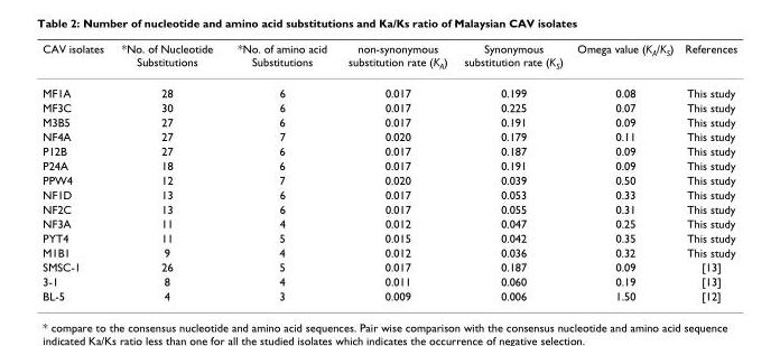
<table><thead><tr><td>CAV isolates</td><td>*No. of Nucleotide Substitutions</td><td>*No. of amino acid Substitutions</td><td>non-synonymous substitution rate (K<sub>A</sub>)</td><td>Synonymous substitution rate (K<sub>S</sub>)</td><td>Omega value (K<sub>A</sub>/K<sub>S</sub>)</td><td>References</td></tr></thead><tbody><tr><td>MF1A</td><td>28</td><td>6</td><td>0.017</td><td>0.199</td><td>0.08</td><td>This study</td></tr><tr><td>MF3C</td><td>30</td><td>6</td><td>0.017</td><td>0.225</td><td>0.07</td><td>This study</td></tr><tr><td>M3B5</td><td>27</td><td>6</td><td>0.017</td><td>0.191</td><td>0.09</td><td>This study</td></tr><tr><td>NF4A</td><td>27</td><td>7</td><td>0.020</td><td>0.179</td><td>0.11</td><td>This study</td></tr><tr><td>P12B</td><td>27</td><td>6</td><td>0.017</td><td>0.187</td><td>0.09</td><td>This study</td></tr><tr><td>P24A</td><td>18</td><td>6</td><td>0.017</td><td>0.191</td><td>0.09</td><td>This study</td></tr><tr><td>PPW4</td><td>12</td><td>7</td><td>0.020</td><td>0.039</td><td>0.50</td><td>This study</td></tr><tr><td>NF1D</td><td>13</td><td>6</td><td>0.017</td><td>0.053</td><td>0.33</td><td>This study</td></tr><tr><td>NF2C</td><td>13</td><td>6</td><td>0.017</td><td>0.055</td><td>0.31</td><td>This study</td></tr><tr><td>NF3A</td><td>11</td><td>4</td><td>0.012</td><td>0.047</td><td>0.25</td><td>This study</td></tr><tr><td>PYT4</td><td>11</td><td>5</td><td>0.015</td><td>0.042</td><td>0.35</td><td>This study</td></tr><tr><td>M1B1</td><td>9</td><td>4</td><td>0.012</td><td>0.036</td><td>0.32</td><td>This study</td></tr><tr><td>SMSC-1</td><td>26</td><td>5</td><td>0.017</td><td>0.187</td><td>0.09</td><td>[13]</td></tr><tr><td>3-1</td><td>8</td><td>4</td><td>0.011</td><td>0.060</td><td>0.19</td><td>[13]</td></tr><tr><td>BL-5</td><td>4</td><td>3</td><td>0.009</td><td>0.006</td><td>1.50</td><td>[12]</td></tr></tbody></table>